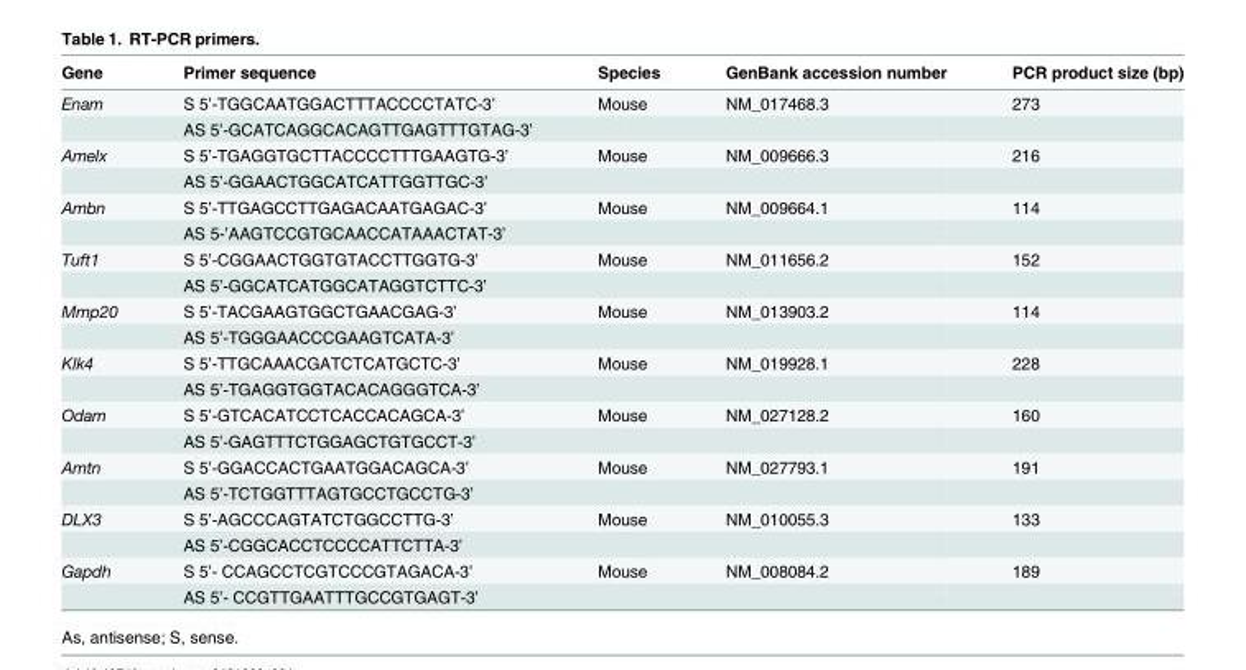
<table><thead><tr><td>Gene</td><td>Primer sequence</td><td>Species</td><td>GenBank accession number</td><td>PCR product size (bp)</td></tr></thead><tbody><tr><td rowspan="2">Enam</td><td>S 5’-TGGCAATGGACTTTACCCCTATC-3’</td><td>Mouse</td><td>NM_017468.3</td><td>273</td></tr><tr><td>AS 5’-GCATCAGGCACAGTTGAGTTTGTAG-3’</td><td></td><td></td><td></td></tr><tr><td rowspan="2">Amelx</td><td>S 5’-TGAGGTGCTTACCCCTTTGAAGTG-3’</td><td>Mouse</td><td>NM_009666.3</td><td>216</td></tr><tr><td>AS 5’-GGAACTGGCATCATTGGTTGC-3’</td><td></td><td></td><td></td></tr><tr><td rowspan="2">Ambn</td><td>S 5’-TTGAGCCTTGAGACAATGAGAC-3’</td><td>Mouse</td><td>NM_009664.1</td><td>114</td></tr><tr><td>AS 5-’AAGTCCGTGCAACCATAAACTAT-3’</td><td></td><td></td><td></td></tr><tr><td rowspan="2">Tuft1</td><td>S 5’-CGGAACTGGTGTACCTTGGTG-3’</td><td>Mouse</td><td>NM_011656.2</td><td>152</td></tr><tr><td>AS 5’-GGCATCATGGCATAGGTCTTC-3’</td><td></td><td></td><td></td></tr><tr><td rowspan="2">Mmp20</td><td>S 5’-TACGAAGTGGCTGAACGAG-3’</td><td>Mouse</td><td>NM_013903.2</td><td>114</td></tr><tr><td>AS 5’-TGGGAACCCGAAGTCATA-3’</td><td></td><td></td><td></td></tr><tr><td rowspan="2">Klk4</td><td>S 5’-TTGCAAACGATCTCATGCTC-3’</td><td>Mouse</td><td>NM_019928.1</td><td>228</td></tr><tr><td>AS 5’-TGAGGTGGTACACAGGGTCA-3’</td><td></td><td></td><td></td></tr><tr><td rowspan="2">Odam</td><td>S 5’-GTCACATCCTCACCACAGCA-3’</td><td>Mouse</td><td>NM_027128.2</td><td>160</td></tr><tr><td>AS 5’-GAGTTTCTGGAGCTGTGCCT-3’</td><td></td><td></td><td></td></tr><tr><td rowspan="2">Amtn</td><td>S 5’-GGACCACTGAATGGACAGCA-3’</td><td>Mouse</td><td>NM_027793.1</td><td>191</td></tr><tr><td>AS 5’-TCTGGTTTAGTGCCTGCCTG-3’</td><td></td><td></td><td></td></tr><tr><td rowspan="2">DLX3</td><td>S 5’-AGCCCAGTATCTGGCCTTG-3’</td><td>Mouse</td><td>NM_010055.3</td><td>133</td></tr><tr><td>AS 5’-CGGCACCTCCCCATTCTTA-3’</td><td></td><td></td><td></td></tr><tr><td rowspan="2">Gapdh</td><td>S 5’- CCAGCCTCGTCCCGTAGACA-3’</td><td>Mouse</td><td>NM_008084.2</td><td>189</td></tr><tr><td>AS 5’- CCGTTGAATTTGCCGTGAGT-3’</td><td></td><td></td><td></td></tr></tbody></table>